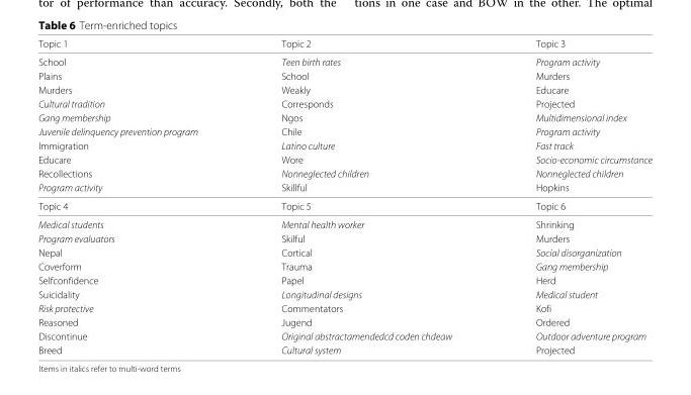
<table><thead><tr><td>Topic 1</td><td>Topic 2</td><td>Topic 3</td></tr></thead><tbody><tr><td>School</td><td>Teen birth rates</td><td>Program activity</td></tr><tr><td>Plains</td><td>School</td><td>Murders</td></tr><tr><td>Murders</td><td>Weakly</td><td>Educare</td></tr><tr><td>Cultural tradition</td><td>Corresponds</td><td>Projected</td></tr><tr><td>Gang membership</td><td>Ngos</td><td>Multidimensional index</td></tr><tr><td>Juvenile delinquency prevention program</td><td>Chile</td><td>Program activity</td></tr><tr><td>Immigration</td><td>Latino culture</td><td>Fast track</td></tr><tr><td>Educare</td><td>Wore</td><td>Socio-economic circumstance</td></tr><tr><td>Recollections</td><td>Nonneglected children</td><td>Nonneglected children</td></tr><tr><td>Program activity</td><td>Skillful</td><td>Hopkins</td></tr><tr><td>Topic 4</td><td>Topic 5</td><td>Topic 6</td></tr><tr><td>Medical students</td><td>Mental health worker</td><td>Shrinking</td></tr><tr><td>Program evaluators</td><td>Skilful</td><td>Murders</td></tr><tr><td>Nepal</td><td>Cortical</td><td>Social disorganization</td></tr><tr><td>Coverform</td><td>Trauma</td><td>Gang membership</td></tr><tr><td>Selfconfidence</td><td>Papel</td><td>Herd</td></tr><tr><td>Suicidality</td><td>Longitudinal designs</td><td>Medical student</td></tr><tr><td>Risk protective</td><td>Commentators</td><td>Kofi</td></tr><tr><td>Reasoned</td><td>Jugend</td><td>Ordered</td></tr><tr><td>Discontinue</td><td>Original abstractamendedcd coden chdeaw</td><td>Outdoor adventure program</td></tr><tr><td>Breed</td><td>Cultural system</td><td>Projected</td></tr></tbody></table>